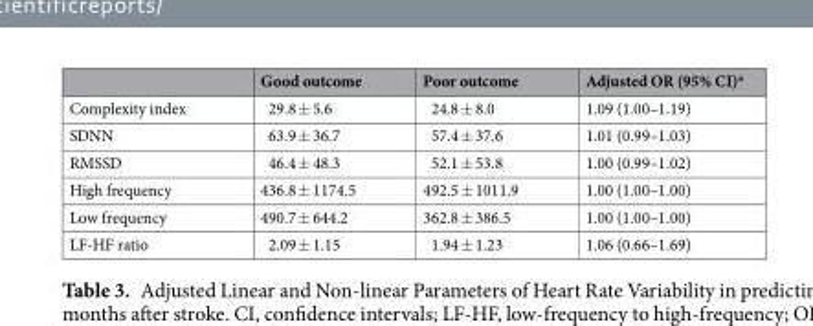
<table><thead><tr><td></td><td>Good outcome</td><td>Poor outcome</td><td>Adjusted OR (95% CI)<sup>a</sup></td></tr></thead><tbody><tr><td>Complexity index</td><td>29.8 ± 5.6</td><td>24.8 ± 8.0</td><td>1.09 (1.00–1.19)</td></tr><tr><td>SDNN</td><td>63.9 ± 36.7</td><td>57.4 ± 37.6</td><td>1.01 (0.99–1.03)</td></tr><tr><td>RMSSD</td><td>46.4 ± 48.3</td><td>52.1 ± 53.8</td><td>1.00 (0.99–1.02)</td></tr><tr><td>High frequency</td><td>436.8 ± 1174.5</td><td>492.5 ± 1011.9</td><td>1.00 (1.00–1.00)</td></tr><tr><td>Low frequency</td><td>490.7 ± 644.2</td><td>362.8 ± 386.5</td><td>1.00 (1.00–1.00)</td></tr><tr><td>LF-HF ratio</td><td>2.09 ± 1.15</td><td>1.94 ± 1.23</td><td>1.06 (0.66–1.69)</td></tr></tbody></table>